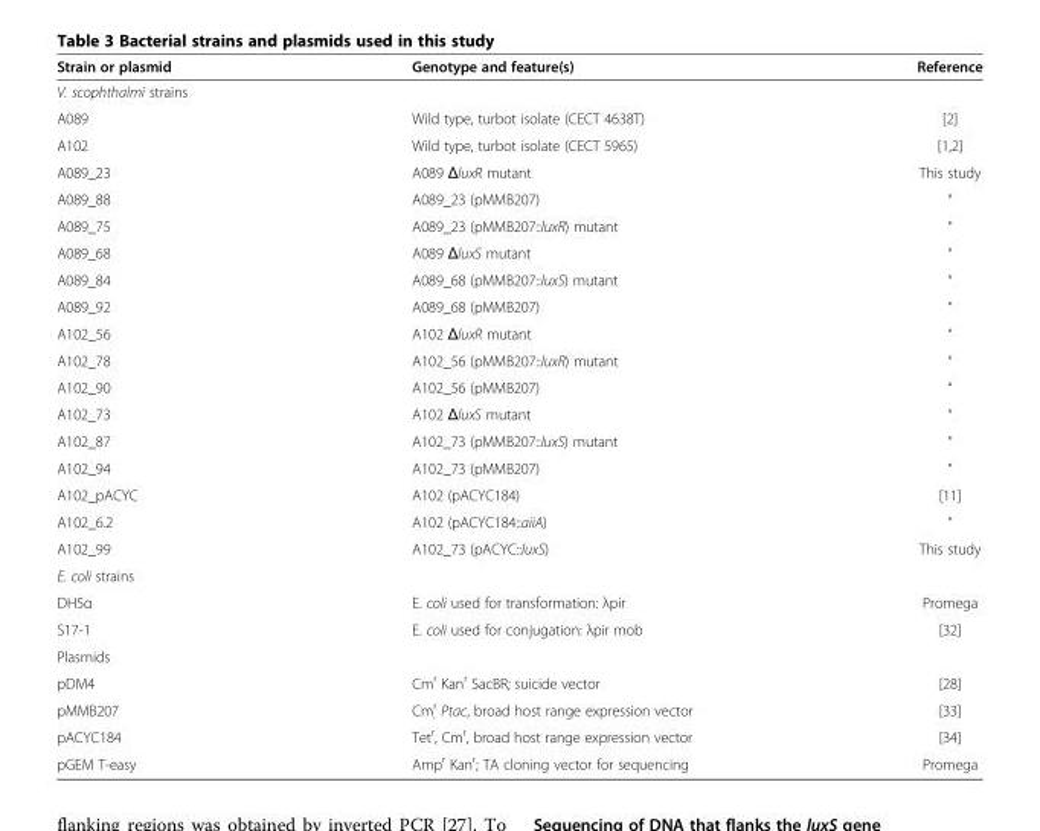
<table><thead><tr><td>Strain or plasmid</td><td>Genotype and feature(s)</td><td>Reference</td></tr></thead><tbody><tr><td colspan="3">V. scophthalmi strains</td></tr><tr><td>A089</td><td>Wild type, turbot isolate (CECT 4638T)</td><td>[2]</td></tr><tr><td>A102</td><td>Wild type, turbot isolate (CECT 5965)</td><td>[1,2]</td></tr><tr><td>A089_23</td><td>A089 ΔluxR mutant</td><td>This study</td></tr><tr><td>A089_88</td><td>A089_23 (pMMB207)</td><td>“</td></tr><tr><td>A089_75</td><td>A089_23 (pMMB207::luxR) mutant</td><td>“</td></tr><tr><td>A089_68</td><td>A089 ΔluxS mutant</td><td>“</td></tr><tr><td>A089_84</td><td>A089_68 (pMMB207::luxS) mutant</td><td>“</td></tr><tr><td>A089_92</td><td>A089_68 (pMMB207)</td><td>“</td></tr><tr><td>A102_56</td><td>A102 ΔluxR mutant</td><td>“</td></tr><tr><td>A102_78</td><td>A102_56 (pMMB207::luxR) mutant</td><td>“</td></tr><tr><td>A102_90</td><td>A102_56 (pMMB207)</td><td>“</td></tr><tr><td>A102_73</td><td>A102 ΔluxS mutant</td><td>“</td></tr><tr><td>A102_87</td><td>A102_73 (pMMB207::luxS) mutant</td><td>“</td></tr><tr><td>A102_94</td><td>A102_73 (pMMB207)</td><td>“</td></tr><tr><td>A102_pACYC</td><td>A102 (pACYC184)</td><td>[11]</td></tr><tr><td>A102_6.2</td><td>A102 (pACYC184::aiiA)</td><td>“</td></tr><tr><td>A102_99</td><td>A102_73 (pACYC::luxS)</td><td>This study</td></tr><tr><td colspan="3">E. coli strains</td></tr><tr><td>DH5α</td><td>E. coli used for transformation: λpir</td><td>Promega</td></tr><tr><td>S17-1</td><td>E. coli used for conjugation: λpir mob</td><td>[32]</td></tr><tr><td colspan="3">Plasmids</td></tr><tr><td>pDM4</td><td>Cm<sup>r</sup> Kan<sup>r</sup> SacBR; suicide vector</td><td>[28]</td></tr><tr><td>pMMB207</td><td>Cm<sup>r</sup> <sub>,</sub> Ptac, broad host range expression vector</td><td>[33]</td></tr><tr><td>pACYC184</td><td>Tet<sup>r</sup>, Cm<sup>r</sup>, broad host range expression vector</td><td>[34]</td></tr><tr><td>pGEM T-easy</td><td>Amp<sup>r</sup> Kan<sup>r</sup>; TA cloning vector for sequencing</td><td>Promega</td></tr></tbody></table>